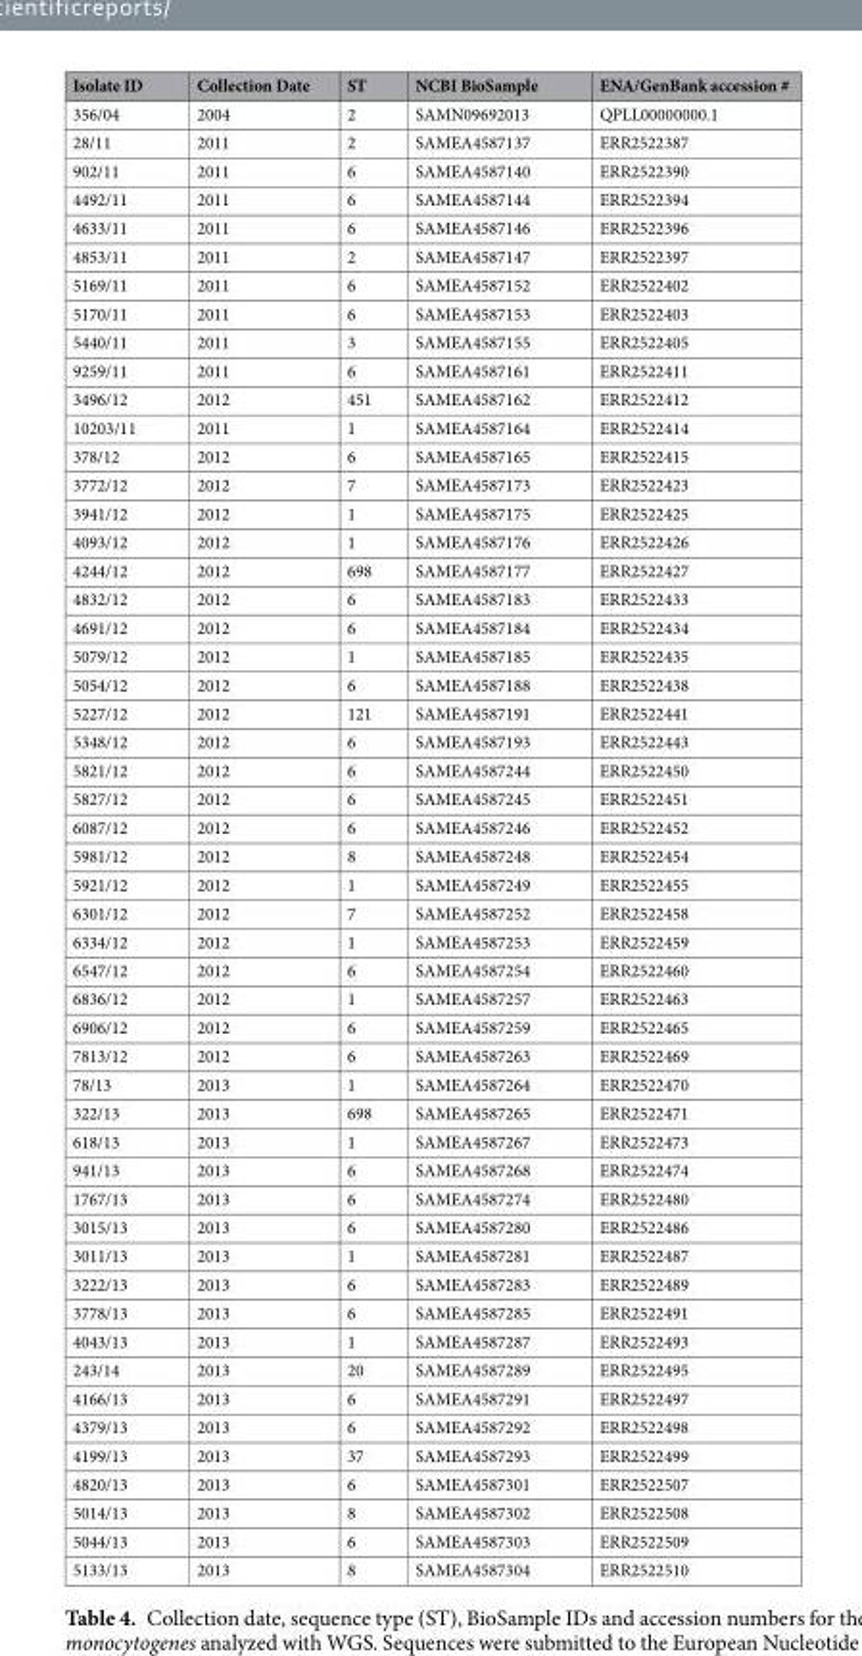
<table><thead><tr><td>Isolate ID</td><td>Collection Date</td><td>ST</td><td>NCBI BioSample</td><td>ENA/GenBank accession #</td></tr></thead><tbody><tr><td>356/04</td><td>2004</td><td>2</td><td>SAMN09692013</td><td>QPLL00000000.1</td></tr><tr><td>28/11</td><td>2011</td><td>2</td><td>SAMEA4587137</td><td>ERR2522387</td></tr><tr><td>902/11</td><td>2011</td><td>6</td><td>SAMEA4587140</td><td>ERR2522390</td></tr><tr><td>4492/11</td><td>2011</td><td>6</td><td>SAMEA4587144</td><td>ERR2522394</td></tr><tr><td>4633/11</td><td>2011</td><td>6</td><td>SAMEA4587146</td><td>ERR2522396</td></tr><tr><td>4853/11</td><td>2011</td><td>2</td><td>SAMEA4587147</td><td>ERR2522397</td></tr><tr><td>5169/11</td><td>2011</td><td>6</td><td>SAMEA4587152</td><td>ERR2522402</td></tr><tr><td>5170/11</td><td>2011</td><td>6</td><td>SAMEA4587153</td><td>ERR2522403</td></tr><tr><td>5440/11</td><td>2011</td><td>3</td><td>SAMEA4587155</td><td>ERR2522405</td></tr><tr><td>9259/11</td><td>2011</td><td>6</td><td>SAMEA4587161</td><td>ERR2522411</td></tr><tr><td>3496/12</td><td>2012</td><td>451</td><td>SAMEA4587162</td><td>ERR2522412</td></tr><tr><td>10203/11</td><td>2011</td><td>1</td><td>SAMEA4587164</td><td>ERR2522414</td></tr><tr><td>378/12</td><td>2012</td><td>6</td><td>SAMEA4587165</td><td>ERR2522415</td></tr><tr><td>3772/12</td><td>2012</td><td>7</td><td>SAMEA4587173</td><td>ERR2522423</td></tr><tr><td>3941/12</td><td>2012</td><td>1</td><td>SAMEA4587175</td><td>ERR2522425</td></tr><tr><td>4093/12</td><td>2012</td><td>1</td><td>SAMEA4587176</td><td>ERR2522426</td></tr><tr><td>4244/12</td><td>2012</td><td>698</td><td>SAMEA4587177</td><td>ERR2522427</td></tr><tr><td>4832/12</td><td>2012</td><td>6</td><td>SAMEA4587183</td><td>ERR2522433</td></tr><tr><td>4691/12</td><td>2012</td><td>6</td><td>SAMEA4587184</td><td>ERR2522434</td></tr><tr><td>5079/12</td><td>2012</td><td>1</td><td>SAMEA4587185</td><td>ERR2522435</td></tr><tr><td>5054/12</td><td>2012</td><td>6</td><td>SAMEA4587188</td><td>ERR2522438</td></tr><tr><td>5227/12</td><td>2012</td><td>121</td><td>SAMEA4587191</td><td>ERR2522441</td></tr><tr><td>5348/12</td><td>2012</td><td>6</td><td>SAMEA4587193</td><td>ERR2522443</td></tr><tr><td>5821/12</td><td>2012</td><td>6</td><td>SAMEA4587244</td><td>ERR2522450</td></tr><tr><td>5827/12</td><td>2012</td><td>6</td><td>SAMEA4587245</td><td>ERR2522451</td></tr><tr><td>6087/12</td><td>2012</td><td>6</td><td>SAMEA4587246</td><td>ERR2522452</td></tr><tr><td>5981/12</td><td>2012</td><td>8</td><td>SAMEA4587248</td><td>ERR2522454</td></tr><tr><td>5921/12</td><td>2012</td><td>1</td><td>SAMEA4587249</td><td>ERR2522455</td></tr><tr><td>6301/12</td><td>2012</td><td>7</td><td>SAMEA4587252</td><td>ERR2522458</td></tr><tr><td>6334/12</td><td>2012</td><td>1</td><td>SAMEA4587253</td><td>ERR2522459</td></tr><tr><td>6547/12</td><td>2012</td><td>6</td><td>SAMEA4587254</td><td>ERR2522460</td></tr><tr><td>6836/12</td><td>2012</td><td>1</td><td>SAMEA4587257</td><td>ERR2522463</td></tr><tr><td>6906/12</td><td>2012</td><td>6</td><td>SAMEA4587259</td><td>ERR2522465</td></tr><tr><td>7813/12</td><td>2012</td><td>6</td><td>SAMEA4587263</td><td>ERR2522469</td></tr><tr><td>78/13</td><td>2013</td><td>1</td><td>SAMEA4587264</td><td>ERR2522470</td></tr><tr><td>322/13</td><td>2013</td><td>698</td><td>SAMEA4587265</td><td>ERR2522471</td></tr><tr><td>618/13</td><td>2013</td><td>1</td><td>SAMEA4587267</td><td>ERR2522473</td></tr><tr><td>941/13</td><td>2013</td><td>6</td><td>SAMEA4587268</td><td>ERR2522474</td></tr><tr><td>1767/13</td><td>2013</td><td>6</td><td>SAMEA4587274</td><td>ERR2522480</td></tr><tr><td>3015/13</td><td>2013</td><td>6</td><td>SAMEA4587280</td><td>ERR2522486</td></tr><tr><td>3011/13</td><td>2013</td><td>1</td><td>SAMEA4587281</td><td>ERR2522487</td></tr><tr><td>3222/13</td><td>2013</td><td>6</td><td>SAMEA4587283</td><td>ERR2522489</td></tr><tr><td>3778/13</td><td>2013</td><td>6</td><td>SAMEA4587285</td><td>ERR2522491</td></tr><tr><td>4043/13</td><td>2013</td><td>1</td><td>SAMEA4587287</td><td>ERR2522493</td></tr><tr><td>243/14</td><td>2013</td><td>20</td><td>SAMEA4587289</td><td>ERR2522495</td></tr><tr><td>4166/13</td><td>2013</td><td>6</td><td>SAMEA4587291</td><td>ERR2522497</td></tr><tr><td>4379/13</td><td>2013</td><td>6</td><td>SAMEA4587292</td><td>ERR2522498</td></tr><tr><td>4199/13</td><td>2013</td><td>37</td><td>SAMEA4587293</td><td>ERR2522499</td></tr><tr><td>4820/13</td><td>2013</td><td>6</td><td>SAMEA4587301</td><td>ERR2522507</td></tr><tr><td>5014/13</td><td>2013</td><td>8</td><td>SAMEA4587302</td><td>ERR2522508</td></tr><tr><td>5044/13</td><td>2013</td><td>6</td><td>SAMEA4587303</td><td>ERR2522509</td></tr><tr><td>5133/13</td><td>2013</td><td>8</td><td>SAMEA4587304</td><td>ERR2522510</td></tr></tbody></table>